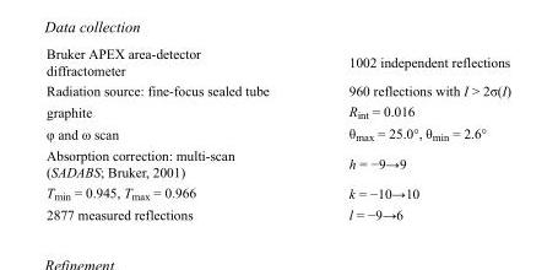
<table><tbody><tr><td>Bruker APEX area-detector diffractometer</td><td>1002 independent reflections</td></tr><tr><td>Radiation source: fine-focus sealed tube</td><td>960 reflections with I &gt; 2σ(I)</td></tr><tr><td>graphite</td><td>R<sub>int</sub> = 0.016</td></tr><tr><td>φ and ω scan</td><td>θ<sub>max</sub> = 25.0°, θ<sub>min</sub> = 2.6°</td></tr><tr><td>Absorption correction: multi-scan (SADABS; Bruker, 2001)</td><td>h = −9→9</td></tr><tr><td>T<sub>min</sub> = 0.945, T<sub>max</sub> = 0.966</td><td>k = −10→10</td></tr><tr><td>2877 measured reflections</td><td>l = −9→6</td></tr></tbody></table>